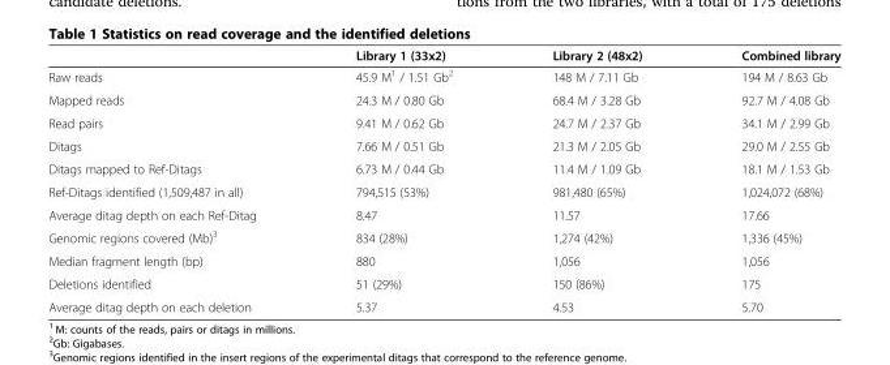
<table><thead><tr><td></td><td>Library 1 (33x2)</td><td>Library 2 (48x2)</td><td>Combined library</td></tr></thead><tbody><tr><td>Raw reads</td><td>45.9 M<sup>1</sup> / 1.51 Gb<sup>2</sup></td><td>148 M / 7.11 Gb</td><td>194 M / 8.63 Gb</td></tr><tr><td>Mapped reads</td><td>24.3 M / 0.80 Gb</td><td>68.4 M / 3.28 Gb</td><td>92.7 M / 4.08 Gb</td></tr><tr><td>Read pairs</td><td>9.41 M / 0.62 Gb</td><td>24.7 M / 2.37 Gb</td><td>34.1 M / 2.99 Gb</td></tr><tr><td>Ditags</td><td>7.66 M / 0.51 Gb</td><td>21.3 M / 2.05 Gb</td><td>29.0 M / 2.55 Gb</td></tr><tr><td>Ditags mapped to Ref-Ditags</td><td>6.73 M / 0.44 Gb</td><td>11.4 M / 1.09 Gb</td><td>18.1 M / 1.53 Gb</td></tr><tr><td>Ref-Ditags identified (1,509,487 in all)</td><td>794,515 (53%)</td><td>981,480 (65%)</td><td>1,024,072 (68%)</td></tr><tr><td>Average ditag depth on each Ref-Ditag</td><td>8.47</td><td>11.57</td><td>17.66</td></tr><tr><td>Genomic regions covered (Mb)<sup>3</sup></td><td>834 (28%)</td><td>1,274 (42%)</td><td>1,336 (45%)</td></tr><tr><td>Median fragment length (bp)</td><td>880</td><td>1,056</td><td>1,056</td></tr><tr><td>Deletions identified</td><td>51 (29%)</td><td>150 (86%)</td><td>175</td></tr><tr><td>Average ditag depth on each deletion</td><td>5.37</td><td>4.53</td><td>5.70</td></tr></tbody></table>